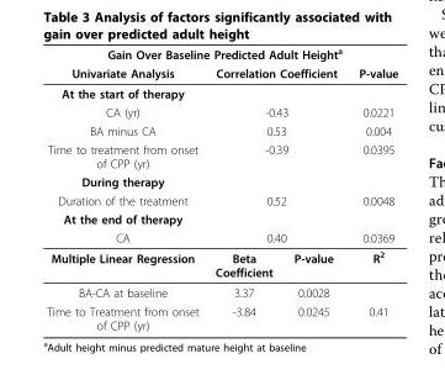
<table><thead><tr><td colspan="4">Gain Over Baseline Predicted Adult Height<sup>a</sup></td></tr><tr><td rowspan="2">Univariate Analysis At the start of therapy</td><td colspan="2">Correlation Coefficient</td><td rowspan="2">P-value</td></tr><tr><td></td><td></td></tr></thead><tbody><tr><td>CA (yr)</td><td colspan="2">-0.43</td><td>0.0221</td></tr><tr><td>BA minus CA</td><td colspan="2">0.53</td><td>0.004</td></tr><tr><td>Time to treatment from onset of CPP (yr)</td><td colspan="2">-0.39</td><td>0.0395</td></tr><tr><td colspan="4">During therapy</td></tr><tr><td>Duration of the treatment</td><td colspan="2">0.52</td><td>0.0048</td></tr><tr><td colspan="4">At the end of therapy</td></tr><tr><td>CA</td><td colspan="2">0.40</td><td>0.0369</td></tr><tr><td>Multiple Linear Regression</td><td>Beta Coefficient</td><td>P-value</td><td>R<sup>2</sup></td></tr><tr><td>BA-CA at baseline</td><td>3.37</td><td>0.0028</td><td></td></tr><tr><td>Time to Treatment from onset of CPP (yr)</td><td>-3.84</td><td>0.0245</td><td>0.41</td></tr></tbody></table>